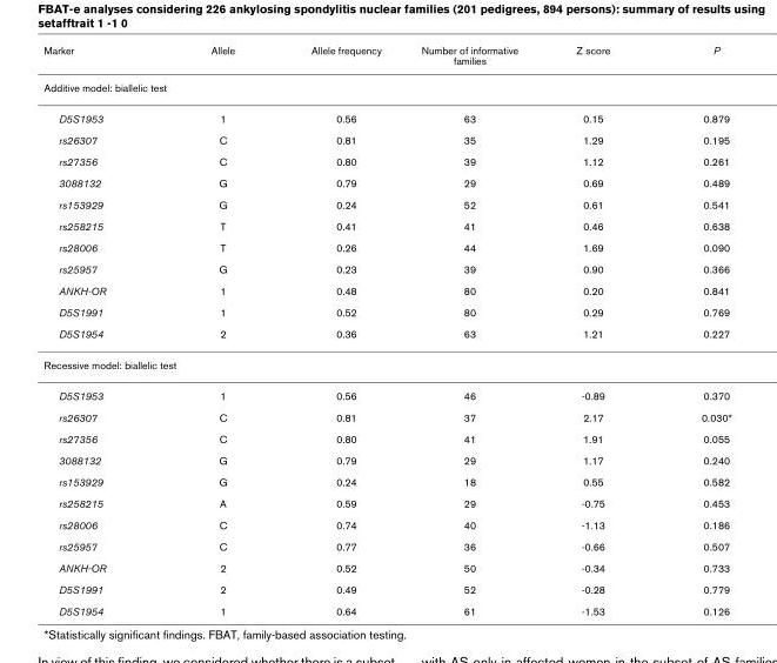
<table><thead><tr><td>Marker</td><td>Allele</td><td>Allele frequency</td><td>Number of informative families</td><td>Z score</td><td>P</td></tr></thead><tbody><tr><td colspan="6">Additive model: biallelic test</td></tr><tr><td>D5S1953</td><td>1</td><td>0.56</td><td>63</td><td>0.15</td><td>0.879</td></tr><tr><td>rs26307</td><td>C</td><td>0.81</td><td>35</td><td>1.29</td><td>0.195</td></tr><tr><td>rs27356</td><td>C</td><td>0.80</td><td>39</td><td>1.12</td><td>0.261</td></tr><tr><td>3088132</td><td>G</td><td>0.79</td><td>29</td><td>0.69</td><td>0.489</td></tr><tr><td>rs153929</td><td>G</td><td>0.24</td><td>52</td><td>0.61</td><td>0.541</td></tr><tr><td>rs258215</td><td>T</td><td>0.41</td><td>41</td><td>0.46</td><td>0.638</td></tr><tr><td>rs28006</td><td>T</td><td>0.26</td><td>44</td><td>1.69</td><td>0.090</td></tr><tr><td>rs25957</td><td>G</td><td>0.23</td><td>39</td><td>0.90</td><td>0.366</td></tr><tr><td>ANKH-OR</td><td>1</td><td>0.48</td><td>80</td><td>0.20</td><td>0.841</td></tr><tr><td>D5S1991</td><td>1</td><td>0.52</td><td>80</td><td>0.29</td><td>0.769</td></tr><tr><td>D5S1954</td><td>2</td><td>0.36</td><td>63</td><td>1.21</td><td>0.227</td></tr><tr><td colspan="6">Recessive model: biallelic test</td></tr><tr><td>D5S1953</td><td>1</td><td>0.56</td><td>46</td><td>-0.89</td><td>0.370</td></tr><tr><td>rs26307</td><td>C</td><td>0.81</td><td>37</td><td>2.17</td><td>0.030*</td></tr><tr><td>rs27356</td><td>C</td><td>0.80</td><td>41</td><td>1.91</td><td>0.055</td></tr><tr><td>3088132</td><td>G</td><td>0.79</td><td>29</td><td>1.17</td><td>0.240</td></tr><tr><td>rs153929</td><td>G</td><td>0.24</td><td>18</td><td>0.55</td><td>0.582</td></tr><tr><td>rs258215</td><td>A</td><td>0.59</td><td>29</td><td>-0.75</td><td>0.453</td></tr><tr><td>rs28006</td><td>C</td><td>0.74</td><td>40</td><td>-1.13</td><td>0.186</td></tr><tr><td>rs25957</td><td>C</td><td>0.77</td><td>36</td><td>-0.66</td><td>0.507</td></tr><tr><td>ANKH-OR</td><td>2</td><td>0.52</td><td>50</td><td>-0.34</td><td>0.733</td></tr><tr><td>D5S1991</td><td>2</td><td>0.49</td><td>52</td><td>-0.28</td><td>0.779</td></tr><tr><td>D5S1954</td><td>1</td><td>0.64</td><td>61</td><td>-1.53</td><td>0.126</td></tr></tbody></table>